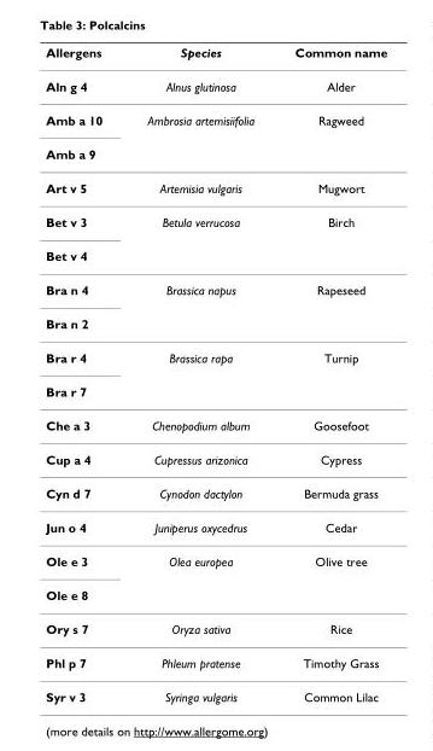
<table><thead><tr><td>Allergens</td><td>Species</td><td>Common name</td></tr></thead><tbody><tr><td>Aln g 4</td><td>Alnus glutinosa</td><td>Alder</td></tr><tr><td>Amb a 10</td><td>Ambrosia artemisiifolia</td><td>Ragweed</td></tr><tr><td colspan="3">Amb a 9</td></tr><tr><td>Art v 5</td><td>Artemisia vulgaris</td><td>Mugwort</td></tr><tr><td>Bet v 3</td><td>Betula verrucosa</td><td>Birch</td></tr><tr><td colspan="3">Bet v 4</td></tr><tr><td>Bra n 4</td><td>Brassica napus</td><td>Rapeseed</td></tr><tr><td colspan="3">Bra n 2</td></tr><tr><td>Bra r 4</td><td>Brassica rapa</td><td>Turnip</td></tr><tr><td colspan="3">Bra r 7</td></tr><tr><td>Che a 3</td><td>Chenopodium album</td><td>Goosefoot</td></tr><tr><td>Cup a 4</td><td>Cupressus arizonica</td><td>Cypress</td></tr><tr><td>Cyn d 7</td><td>Cynodon dactylon</td><td>Bermuda grass</td></tr><tr><td>Jun o 4</td><td>Juniperus oxycedrus</td><td>Cedar</td></tr><tr><td>Ole e 3</td><td>Olea europea</td><td>Olive tree</td></tr><tr><td colspan="3">Ole e 8</td></tr><tr><td>Ory s 7</td><td>Oryza sativa</td><td>Rice</td></tr><tr><td>Phl p 7</td><td>Phleum pratense</td><td>Timothy Grass</td></tr><tr><td>Syr v 3</td><td>Syringa vulgaris</td><td>Common Lilac</td></tr></tbody></table>